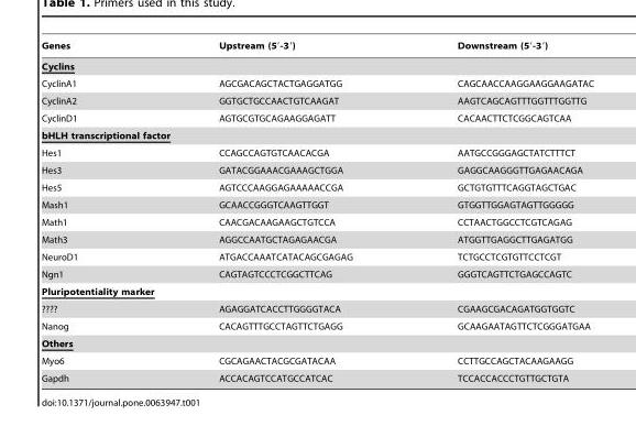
<table><thead><tr><td>Genes</td><td>Upstream (5′-3′)</td><td>Downstream (5′-3′)</td></tr></thead><tbody><tr><td colspan="3">Cyclins</td></tr><tr><td>CyclinA1</td><td>AGCGACAGCTACTGAGGATGG</td><td>CAGCAACCAAGGAAGGAAGATAC</td></tr><tr><td>CyclinA2</td><td>GGTGCTGCCAACTGTCAAGAT</td><td>AAGTCAGCAGTTTGGTTTGGTTG</td></tr><tr><td>CyclinD1</td><td>AGTGCGTGCAGAAGGAGATT</td><td>CACAACTTCTCGGCAGTCAA</td></tr><tr><td colspan="3">bHLH transcriptional factor</td></tr><tr><td>Hes1</td><td>CCAGCCAGTGTCAACACGA</td><td>AATGCCGGGAGCTATCTTTCT</td></tr><tr><td>Hes3</td><td>GATACGGAAACGAAAGCTGGA</td><td>GAGGCAAGGGTTGAGAACAGA</td></tr><tr><td>Hes5</td><td>AGTCCCAAGGAGAAAAACCGA</td><td>GCTGTGTTTCAGGTAGCTGAC</td></tr><tr><td>Mash1</td><td>GCAACCGGGTCAAGTTGGT</td><td>GTGGTTGGAGTAGTTGGGGG</td></tr><tr><td>Math1</td><td>CAACGACAAGAAGCTGTCCA</td><td>CCTAACTGGCCTCGTCAGAG</td></tr><tr><td>Math3</td><td>AGGCCAATGCTAGAGAACGA</td><td>ATGGTTGAGGCTTGAGATGG</td></tr><tr><td>NeuroD1</td><td>ATGACCAAATCATACAGCGAGAG</td><td>TCTGCCTCGTGTTCCTCGT</td></tr><tr><td>Ngn1</td><td>CAGTAGTCCCTCGGCTTCAG</td><td>GGGTCAGTTCTGAGCCAGTC</td></tr><tr><td colspan="3">Pluripotentiality marker</td></tr><tr><td>????</td><td>AGAGGATCACCTTGGGGTACA</td><td>CGAAGCGACAGATGGTGGTC</td></tr><tr><td>Nanog</td><td>CACAGTTTGCCTAGTTCTGAGG</td><td>GCAAGAATAGTTCTCGGGATGAA</td></tr><tr><td colspan="3">Others</td></tr><tr><td>Myo6</td><td>CGCAGAACTACGCGATACAA</td><td>CCTTGCCAGCTACAAGAAGG</td></tr><tr><td>Gapdh</td><td>ACCACAGTCCATGCCATCAC</td><td>TCCACCACCCTGTTGCTGTA</td></tr></tbody></table>